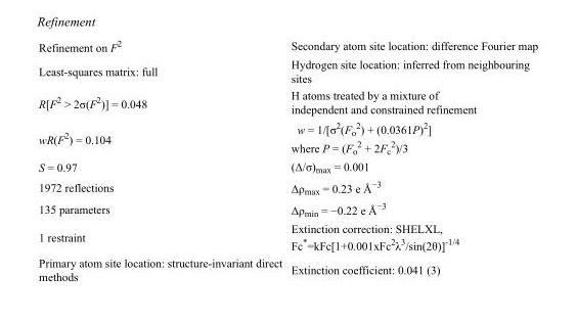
<table><tbody><tr><td>Refinement on F<sup>2</sup></td><td>Secondary atom site location: difference Fourier map</td></tr><tr><td>Least-squares matrix: full</td><td>Hydrogen site location: inferred from neighbouring sites</td></tr><tr><td>R[F<sup>2</sup> &gt; 2σ(F<sup>2</sup>)] = 0.048</td><td>H atoms treated by a mixture of independent and constrained refinement</td></tr><tr><td>wR(F<sup>2</sup>) = 0.104</td><td>w = 1/[σ<sup>2</sup>(F<sub>o</sub> <sup>2</sup>) + (0.0361P)<sup>2</sup>] where P = (F<sub>o</sub> <sup>2</sup> + 2F<sub>c</sub> <sup>2</sup>)/3</td></tr><tr><td>S = 0.97</td><td>(Δ/σ)<sub>max</sub> = 0.001</td></tr><tr><td>1972 reflections</td><td>Δρ<sub>max</sub> = 0.23 e Å<sup>−3</sup></td></tr><tr><td>135 parameters</td><td>Δρ<sub>min</sub> = −0.22 e Å<sup>−3</sup></td></tr><tr><td>1 restraint</td><td>Extinction correction: SHELXL, Fc*=kFc[1+0.001xFc<sup>2</sup>λ<sup>3</sup>/sin(2θ)]<sup>-1/4</sup></td></tr><tr><td>Primary atom site location: structure-invariant direct methods</td><td>Extinction coefficient: 0.041 (3)</td></tr></tbody></table>